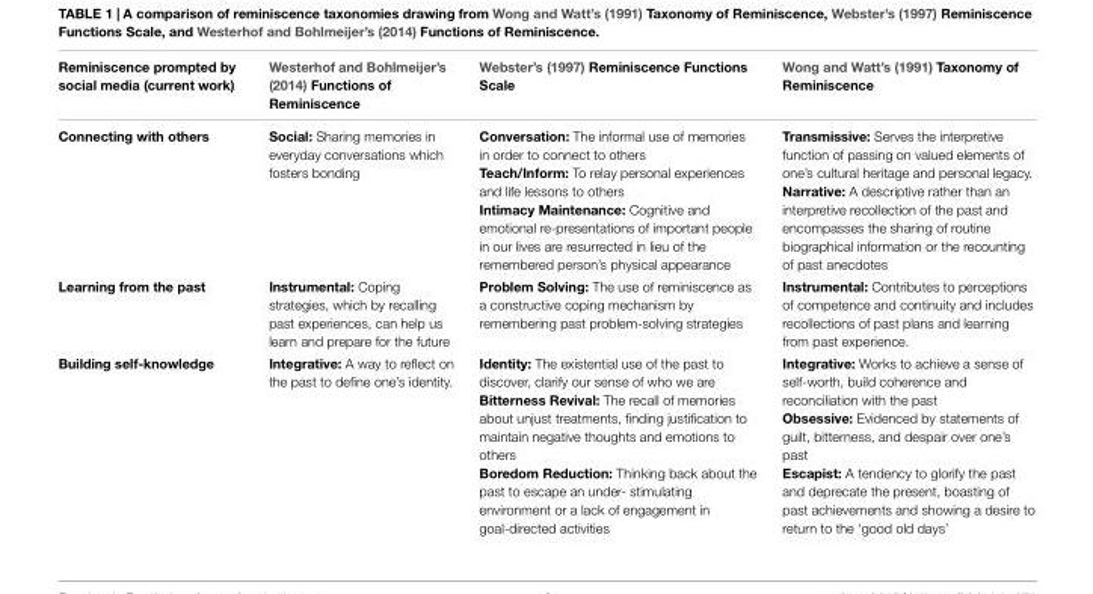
<table><thead><tr><td>Reminiscence prompted by social media (current work)</td><td>Westerhof and Bohlmeijer’s (2014) Functions of Reminiscence</td><td>Webster’s (1997) Reminiscence Functions Scale</td><td>Wong and Watt’s (1991) Taxonomy of Reminiscence</td></tr></thead><tbody><tr><td>Connecting with others</td><td>Social: Sharing memories in everyday conversations which fosters bonding</td><td>Conversation: The informal use of memories in order to connect to others Teach/Inform: To relay personal experiences and life lessons to others Intimacy Maintenance: Cognitive and emotional re-presentations of important people in our lives are resurrected in lieu of the remembered person’s physical appearance</td><td>Transmissive: Serves the interpretive function of passing on valued elements of one’s cultural heritage and personal legacy. Narrative: A descriptive rather than an interpretive recollection of the past and encompasses the sharing of routine biographical information or the recounting of past anecdotes</td></tr><tr><td>Learning from the past</td><td>Instrumental: Coping strategies, which by recalling past experiences, can help us learn and prepare for the future</td><td>Problem Solving: The use of reminiscence as a constructive coping mechanism by remembering past problem-solving strategies</td><td>Instrumental: Contributes to perceptions of competence and continuity and includes recollections of past plans and learning from past experience.</td></tr><tr><td>Building self-knowledge</td><td>Integrative: A way to reflect on the past to define one’s identity.</td><td>Identity: The existential use of the past to discover, clarify our sense of who we are Bitterness Revival: The recall of memories about unjust treatments, finding justification to maintain negative thoughts and emotions to others Boredom Reduction: Thinking back about the past to escape an under- stimulating environment or a lack of engagement in goal-directed activities</td><td>Integrative: Works to achieve a sense of self-worth, build coherence and reconciliation with the past Obsessive: Evidenced by statements of guilt, bitterness, and despair over one’s past Escapist: A tendency to glorify the past and deprecate the present, boasting of past achievements and showing a desire to return to the ‘good old days’</td></tr></tbody></table>